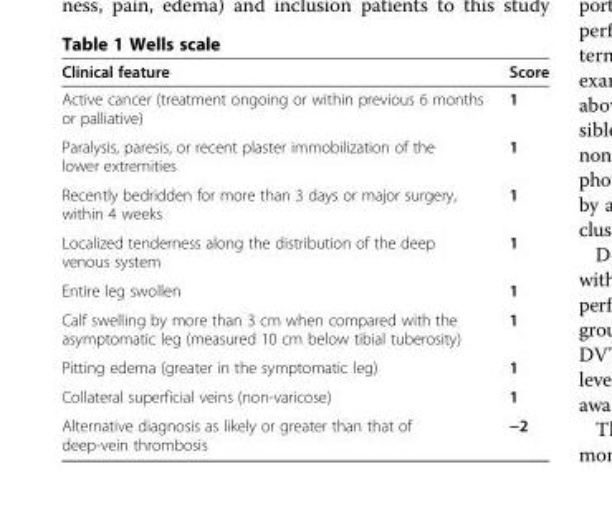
<table><thead><tr><td>Clinical feature</td><td>Score</td></tr></thead><tbody><tr><td>Active cancer (treatment ongoing or within previous 6 months or palliative)</td><td>1</td></tr><tr><td>Paralysis, paresis, or recent plaster immobilization of the lower extremities</td><td>1</td></tr><tr><td>Recently bedridden for more than 3 days or major surgery, within 4 weeks</td><td>1</td></tr><tr><td>Localized tenderness along the distribution of the deep venous system</td><td>1</td></tr><tr><td>Entire leg swollen</td><td>1</td></tr><tr><td>Calf swelling by more than 3 cm when compared with the asymptomatic leg (measured 10 cm below tibial tuberosity)</td><td>1</td></tr><tr><td>Pitting edema (greater in the symptomatic leg)</td><td>1</td></tr><tr><td>Collateral superficial veins (non-varicose)</td><td>1</td></tr><tr><td>Alternative diagnosis as likely or greater than that of deep-vein thrombosis</td><td>−2</td></tr></tbody></table>